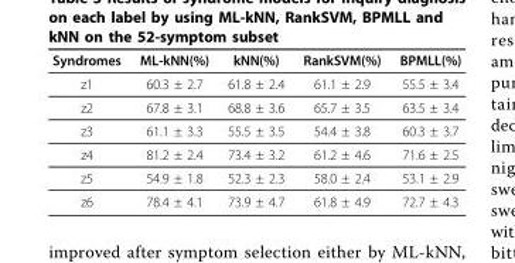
<table><thead><tr><td>Syndromes</td><td>ML-kNN(%)</td><td>kNN(%)</td><td>RankSVM(%)</td><td>BPMLL(%)</td></tr></thead><tbody><tr><td>z1</td><td>60.3 ± 2.7</td><td>61.8 ± 2.4</td><td>61.1 ± 2.9</td><td>55.5 ± 3.4</td></tr><tr><td>z2</td><td>67.8 ± 3.1</td><td>68.8 ± 3.6</td><td>65.7 ± 3.5</td><td>63.5 ± 3.4</td></tr><tr><td>z3</td><td>61.1 ± 3.3</td><td>55.5 ± 3.5</td><td>54.4 ± 3.8</td><td>60.3 ± 3.7</td></tr><tr><td>z4</td><td>81.2 ± 2.4</td><td>73.4 ± 3.2</td><td>61.2 ± 4.6</td><td>71.6 ± 2.5</td></tr><tr><td>z5</td><td>54.9 ± 1.8</td><td>52.3 ± 2.3</td><td>58.0 ± 2.4</td><td>53.1 ± 2.9</td></tr><tr><td>z6</td><td>78.4 ± 4.1</td><td>73.9 ± 4.7</td><td>61.8 ± 4.9</td><td>72.7 ± 4.3</td></tr></tbody></table>